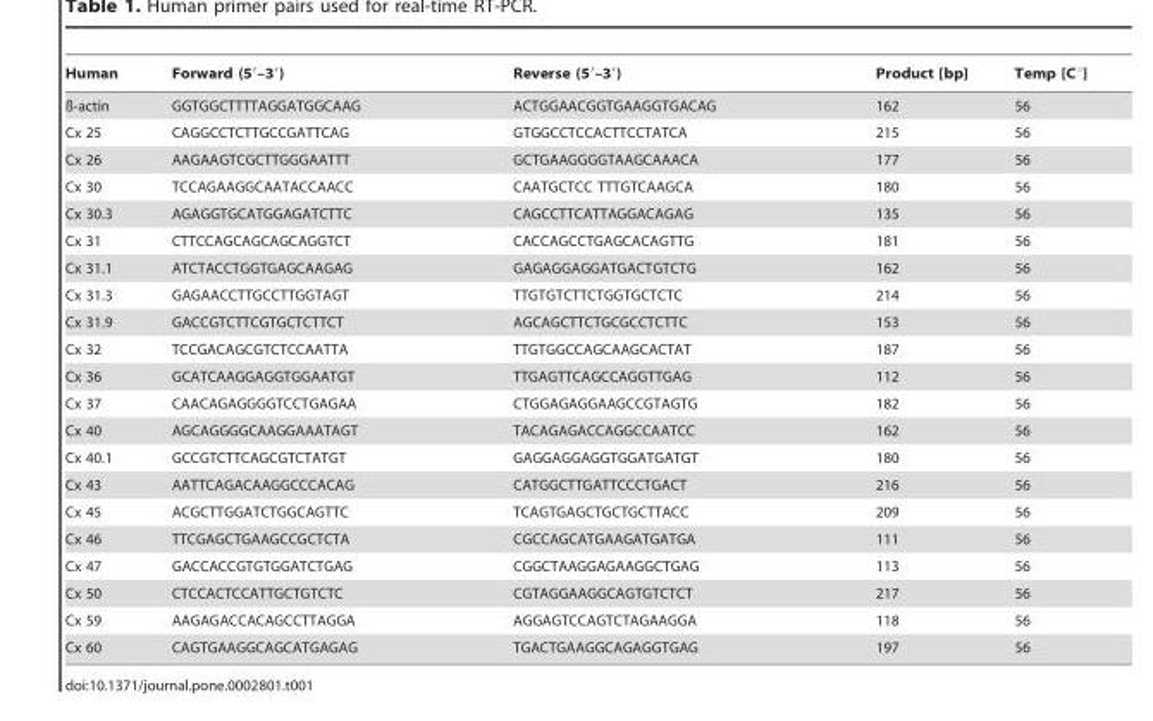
<table><thead><tr><td>Human</td><td>Forward (5′–3′)</td><td>Reverse (5′–3′)</td><td>Product [bp]</td><td>Temp [C°]</td></tr></thead><tbody><tr><td>ß-actin</td><td>GGTGGCTTTTAGGATGGCAAG</td><td>ACTGGAACGGTGAAGGTGACAG</td><td>162</td><td>56</td></tr><tr><td>Cx 25</td><td>CAGGCCTCTTGCCGATTCAG</td><td>GTGGCCTCCACTTCCTATCA</td><td>215</td><td>56</td></tr><tr><td>Cx 26</td><td>AAGAAGTCGCTTGGGAATTT</td><td>GCTGAAGGGGTAAGCAAACA</td><td>177</td><td>56</td></tr><tr><td>Cx 30</td><td>TCCAGAAGGCAATACCAACC</td><td>CAATGCTCC TTTGTCAAGCA</td><td>180</td><td>56</td></tr><tr><td>Cx 30.3</td><td>AGAGGTGCATGGAGATCTTC</td><td>CAGCCTTCATTAGGACAGAG</td><td>135</td><td>56</td></tr><tr><td>Cx 31</td><td>CTTCCAGCAGCAGCAGGTCT</td><td>CACCAGCCTGAGCACAGTTG</td><td>181</td><td>56</td></tr><tr><td>Cx 31.1</td><td>ATCTACCTGGTGAGCAAGAG</td><td>GAGAGGAGGATGACTGTCTG</td><td>162</td><td>56</td></tr><tr><td>Cx 31.3</td><td>GAGAACCTTGCCTTGGTAGT</td><td>TTGTGTCTTCTGGTGCTCTC</td><td>214</td><td>56</td></tr><tr><td>Cx 31.9</td><td>GACCGTCTTCGTGCTCTTCT</td><td>AGCAGCTTCTGCGCCTCTTC</td><td>153</td><td>56</td></tr><tr><td>Cx 32</td><td>TCCGACAGCGTCTCCAATTA</td><td>TTGTGGCCAGCAAGCACTAT</td><td>187</td><td>56</td></tr><tr><td>Cx 36</td><td>GCATCAAGGAGGTGGAATGT</td><td>TTGAGTTCAGCCAGGTTGAG</td><td>112</td><td>56</td></tr><tr><td>Cx 37</td><td>CAACAGAGGGGTCCTGAGAA</td><td>CTGGAGAGGAAGCCGTAGTG</td><td>182</td><td>56</td></tr><tr><td>Cx 40</td><td>AGCAGGGGCAAGGAAATAGT</td><td>TACAGAGACCAGGCCAATCC</td><td>162</td><td>56</td></tr><tr><td>Cx 40.1</td><td>GCCGTCTTCAGCGTCTATGT</td><td>GAGGAGGAGGTGGATGATGT</td><td>180</td><td>56</td></tr><tr><td>Cx 43</td><td>AATTCAGACAAGGCCCACAG</td><td>CATGGCTTGATTCCCTGACT</td><td>216</td><td>56</td></tr><tr><td>Cx 45</td><td>ACGCTTGGATCTGGCAGTTC</td><td>TCAGTGAGCTGCTGCTTACC</td><td>209</td><td>56</td></tr><tr><td>Cx 46</td><td>TTCGAGCTGAAGCCGCTCTA</td><td>CGCCAGCATGAAGATGATGA</td><td>111</td><td>56</td></tr><tr><td>Cx 47</td><td>GACCACCGTGTGGATCTGAG</td><td>CGGCTAAGGAGAAGGCTGAG</td><td>113</td><td>56</td></tr><tr><td>Cx 50</td><td>CTCCACTCCATTGCTGTCTC</td><td>CGTAGGAAGGCAGTGTCTCT</td><td>217</td><td>56</td></tr><tr><td>Cx 59</td><td>AAGAGACCACAGCCTTAGGA</td><td>AGGAGTCCAGTCTAGAAGGA</td><td>118</td><td>56</td></tr><tr><td>Cx 60</td><td>CAGTGAAGGCAGCATGAGAG</td><td>TGACTGAAGGCAGAGGTGAG</td><td>197</td><td>56</td></tr></tbody></table>